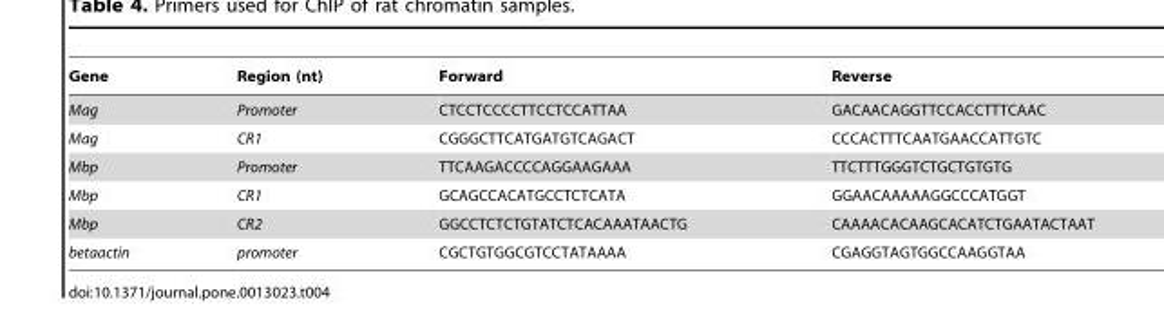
<table><thead><tr><td>Gene</td><td>Region (nt)</td><td>Forward</td><td>Reverse</td></tr></thead><tbody><tr><td>Mag</td><td>Promoter</td><td>CTCCTCCCCTTCCTCCATTAA</td><td>GACAACAGGTTCCACCTTTCAAC</td></tr><tr><td>Mag</td><td>CR1</td><td>CGGGCTTCATGATGTCAGACT</td><td>CCCACTTTCAATGAACCATTGTC</td></tr><tr><td>Mbp</td><td>Promoter</td><td>TTCAAGACCCCAGGAAGAAA</td><td>TTCTTTGGGTCTGCTGTGTG</td></tr><tr><td>Mbp</td><td>CR1</td><td>GCAGCCACATGCCTCTCATA</td><td>GGAACAAAAAGGCCCATGGT</td></tr><tr><td>Mbp</td><td>CR2</td><td>GGCCTCTCTGTATCTCACAAATAACTG</td><td>CAAAACACAAGCACATCTGAATACTAAT</td></tr><tr><td>betaactin</td><td>promoter</td><td>CGCTGTGGCGTCCTATAAAA</td><td>CGAGGTAGTGGCCAAGGTAA</td></tr></tbody></table>